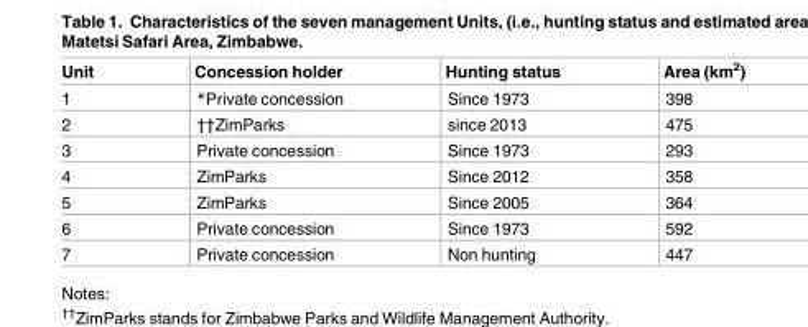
<table><thead><tr><td>Unit</td><td>Concession holder</td><td>Hunting status</td><td>Area (km<sup>2</sup>)</td></tr></thead><tbody><tr><td>1</td><td>*Private concession</td><td>Since 1973</td><td>398</td></tr><tr><td>2</td><td>††ZimParks</td><td>since 2013</td><td>475</td></tr><tr><td>3</td><td>Private concession</td><td>Since 1973</td><td>293</td></tr><tr><td>4</td><td>ZimParks</td><td>Since 2012</td><td>358</td></tr><tr><td>5</td><td>ZimParks</td><td>Since 2005</td><td>364</td></tr><tr><td>6</td><td>Private concession</td><td>Since 1973</td><td>592</td></tr><tr><td>7</td><td>Private concession</td><td>Non hunting</td><td>447</td></tr></tbody></table>